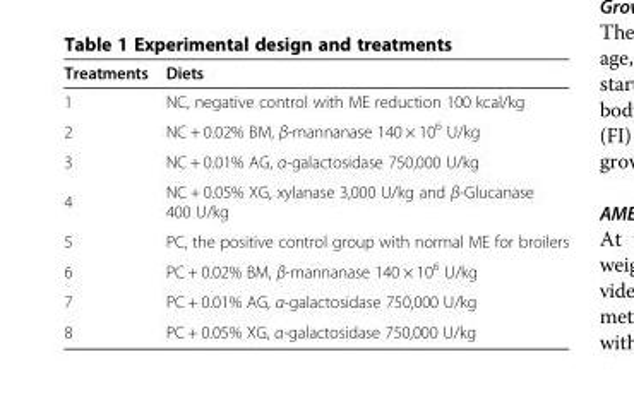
<table><thead><tr><td>Treatments</td><td>Diets</td></tr></thead><tbody><tr><td>1</td><td>NC, negative control with ME reduction 100 kcal/kg</td></tr><tr><td>2</td><td>NC + 0.02% BM, β-mannanase 140 × 10<sup>6</sup> U/kg</td></tr><tr><td>3</td><td>NC + 0.01% AG, α-galactosidase 750,000 U/kg</td></tr><tr><td>4</td><td>NC + 0.05% XG, xylanase 3,000 U/kg and β-Glucanase 400 U/kg</td></tr><tr><td>5</td><td>PC, the positive control group with normal ME for broilers</td></tr><tr><td>6</td><td>PC + 0.02% BM, β-mannanase 140 × 10<sup>6</sup> U/kg</td></tr><tr><td>7</td><td>PC + 0.01% AG, α-galactosidase 750,000 U/kg</td></tr><tr><td>8</td><td>PC + 0.05% XG, α-galactosidase 750,000 U/kg</td></tr></tbody></table>